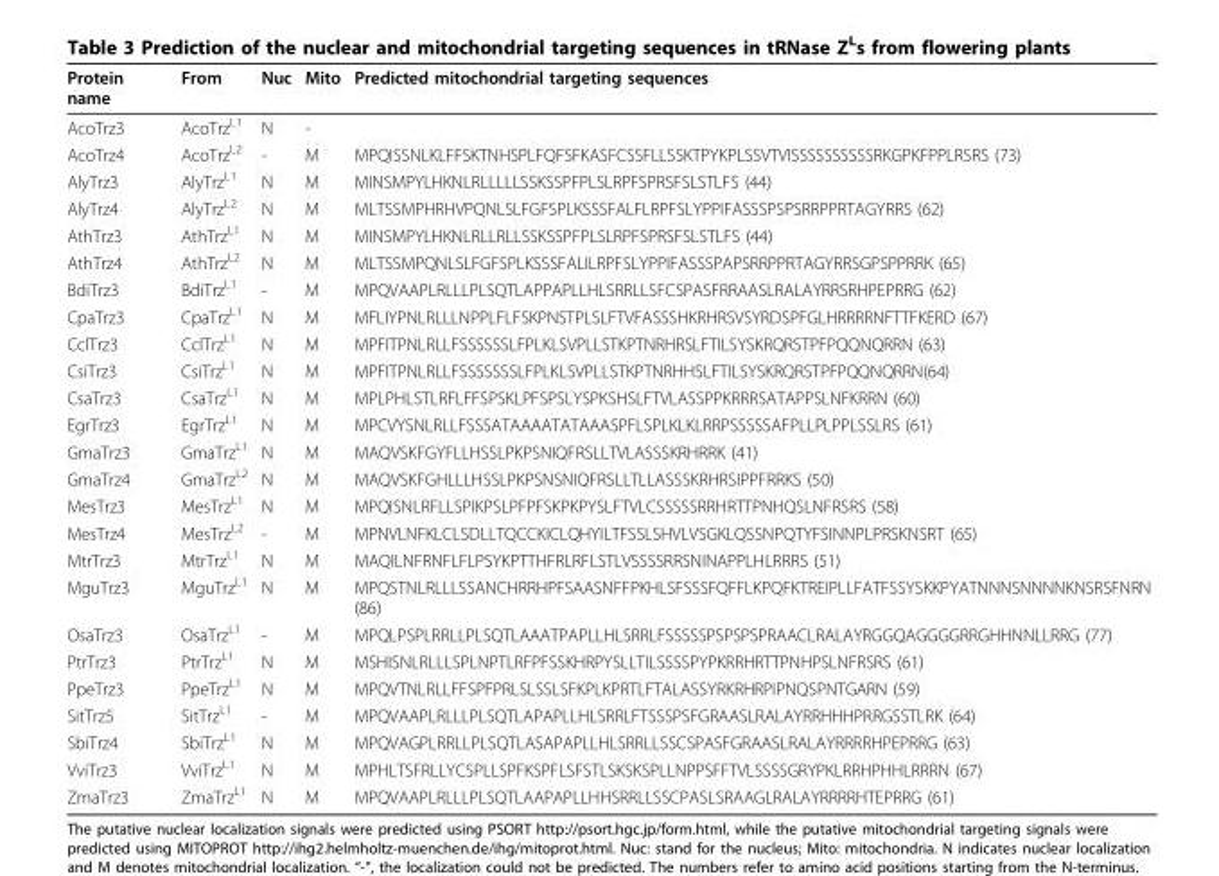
<table><thead><tr><td>Protein name</td><td>From</td><td>Nuc</td><td>Mito</td><td>Predicted mitochondrial targeting sequences</td></tr></thead><tbody><tr><td>AcoTrz3</td><td>AcoTrz<sup>L1</sup></td><td>N</td><td>-</td><td></td></tr><tr><td>AcoTrz4</td><td>AcoTrz<sup>L2</sup></td><td>-</td><td>M</td><td>MPQISSNLKLFFSKTNHSPLFQFSFKASFCSSFLLSSKTPYKPLSSVTVISSSSSSSSSSRKGPKFPPLRSRS (73)</td></tr><tr><td>AlyTrz3</td><td>AlyTrz<sup>L1</sup></td><td>N</td><td>M</td><td>MINSMPYLHKNLRLLLLLSSKSSPFPLSLRPFSPRSFSLSTLFS (44)</td></tr><tr><td>AlyTrz4</td><td>AlyTrz<sup>L2</sup></td><td>N</td><td>M</td><td>MLTSSMPHRHVPQNLSLFGFSPLKSSSFALFLRPFSLYPPIFASSSPSPSRRPPRTAGYRRS (62)</td></tr><tr><td>AthTrz3</td><td>AthTrz<sup>L1</sup></td><td>N</td><td>M</td><td>MINSMPYLHKNLRLLRLLSSKSSPFPLSLRPFSPRSFSLSTLFS (44)</td></tr><tr><td>AthTrz4</td><td>AthTrz<sup>L2</sup></td><td>N</td><td>M</td><td>MLTSSMPQNLSLFGFSPLKSSSFALILRPFSLYPPIFASSSPAPSRRPPRTAGYRRSGPSPPRRK (65)</td></tr><tr><td>BdiTrz3</td><td>BdiTrz<sup>L1</sup></td><td>-</td><td>M</td><td>MPQVAAPLRLLLPLSQTLAPPAPLLHLSRRLLSFCSPASFRRAASLRALAYRRSRHPEPRRG (62)</td></tr><tr><td>CpaTrz3</td><td>CpaTrz<sup>L1</sup></td><td>N</td><td>M</td><td>MFLIYPNLRLLLNPPLFLFSKPNSTPLSLFTVFASSSHKRHRSVSYRDSPFGLHRRRRNFTTFKERD (67)</td></tr><tr><td>CclTrz3</td><td>CclTrz<sup>L1</sup></td><td>N</td><td>M</td><td>MPFITPNLRLLFSSSSSSLFPLKLSVPLLSTKPTNRHRSLFTILSYSKRQRSTPFPQQNQRRN (63)</td></tr><tr><td>CsiTrz3</td><td>CsiTrz<sup>L1</sup></td><td>N</td><td>M</td><td>MPFITPNLRLLFSSSSSSSLFPLKLSVPLLSTKPTNRHHSLFTILSYSKRQRSTPFPQQNQRRN(64)</td></tr><tr><td>CsaTrz3</td><td>CsaTrz<sup>L1</sup></td><td>N</td><td>M</td><td>MPLPHLSTLRFLFFSPSKLPFSPSLYSPKSHSLFTVLASSPPKRRRSATAPPSLNFKRRN (60)</td></tr><tr><td>EgrTrz3</td><td>EgrTrz<sup>L1</sup></td><td>N</td><td>M</td><td>MPCVYSNLRLLFSSSATAAAATATAAASPFLSPLKLKLRRPSSSSSAFPLLPLPPLSSLRS (61)</td></tr><tr><td>GmaTrz3</td><td>GmaTrz<sup>L1</sup></td><td>N</td><td>M</td><td>MAQVSKFGYFLLHSSLPKPSNIQFRSLLTVLASSSKRHRRK (41)</td></tr><tr><td>GmaTrz4</td><td>GmaTrz<sup>L2</sup></td><td>N</td><td>M</td><td>MAQVSKFGHLLLHSSLPKPSNSNIQFRSLLTLLASSSKRHRSIPPFRRKS (50)</td></tr><tr><td>MesTrz3</td><td>MesTrz<sup>L1</sup></td><td>N</td><td>M</td><td>MPQISNLRFLLSPIKPSLPFPFSKPKPYSLFTVLCSSSSSRRHRTTPNHQSLNFRSRS (58)</td></tr><tr><td>MesTrz4</td><td>MesTrz<sup>L2</sup></td><td>-</td><td>M</td><td>MPNVLNFKLCLSDLLTQCCKICLQHYILTFSSLSHVLVSGKLQSSNPQTYFSINNPLPRSKNSRT (65)</td></tr><tr><td>MtrTrz3</td><td>MtrTrz<sup>L1</sup></td><td>N</td><td>M</td><td>MAQILNFRNFLFLPSYKPTTHFRLRFLSTLVSSSSRRSNINAPPLHLRRRS (51)</td></tr><tr><td>MguTrz3</td><td>MguTrz<sup>L1</sup></td><td>N</td><td>M</td><td>MPQSTNLRLLLSSANCHRRHPFSAASNFFPKHLSFSSSFQFFLKPQFKTREIPLLFATFSSYSKKPYATNNNSNNNNKNSRSFNRN (86)</td></tr><tr><td>OsaTrz3</td><td>OsaTrz<sup>L1</sup></td><td>-</td><td>M</td><td>MPQLPSPLRRLLPLSQTLAAATPAPLLHLSRRLFSSSSSPSPSPSPRAACLRALAYRGGQAGGGGRRGHHNNLLRRG (77)</td></tr><tr><td>PtrTrz3</td><td>PtrTrz<sup>L1</sup></td><td>N</td><td>M</td><td>MSHISNLRLLLSPLNPTLRFPFSSKHRPYSLLTILSSSSPYPKRRHRTTPNHPSLNFRSRS (61)</td></tr><tr><td>PpeTrz3</td><td>PpeTrz<sup>L1</sup></td><td>N</td><td>M</td><td>MPQVTNLRLLFFSPFPRLSLSSLSFKPLKPRTLFTALASSYRKRHRPIPNQSPNTGARN (59)</td></tr><tr><td>SitTrz5</td><td>SitTrz<sup>L1</sup></td><td>-</td><td>M</td><td>MPQVAAPLRLLLPLSQTLAPAPLLHLSRRLFTSSSPSFGRAASLRALAYRRHHHPRRGSSTLRK (64)</td></tr><tr><td>SbiTrz4</td><td>SbiTrz<sup>L1</sup></td><td>N</td><td>M</td><td>MPQVAGPLRRLLPLSQTLASAPAPLLHLSRRLLSSCSPASFGRAASLRALAYRRRRHPEPRRG (63)</td></tr><tr><td>VviTrz3</td><td>VviTrz<sup>L1</sup></td><td>N</td><td>M</td><td>MPHLTSFRLLYCSPLLSPFKSPFLSFSTLSKSKSPLLNPPSFFTVLSSSSGRYPKLRRHPHHLRRRN (67)</td></tr><tr><td>ZmaTrz3</td><td>ZmaTrz<sup>L1</sup></td><td>N</td><td>M</td><td>MPQVAAPLRLLLPLSQTLAAPAPLLHHSRRLLSSCPASLSRAAGLRALAYRRRRHTEPRRG (61)</td></tr></tbody></table>